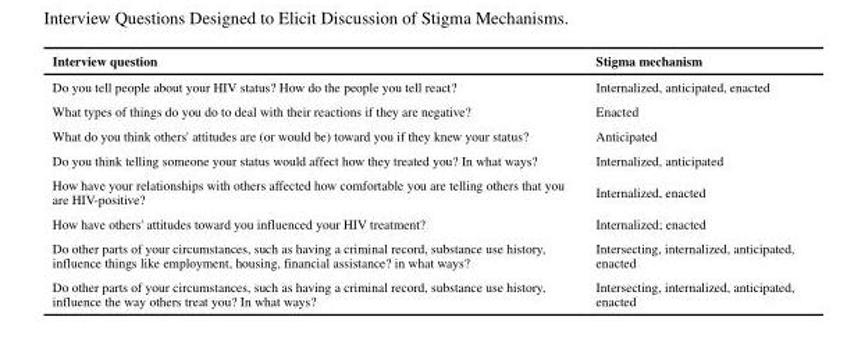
<table><thead><tr><td>Interview question</td><td>Stigma mechanism</td></tr></thead><tbody><tr><td>Do you tell people about your HIV status? How do the people you tell react?</td><td>Internalized, anticipated, enacted</td></tr><tr><td>What types of things do you do to deal with their reactions if they are negative?</td><td>Enacted</td></tr><tr><td>What do you think others&#x27; attitudes are (or would be) toward you if they knew your status?</td><td>Anticipated</td></tr><tr><td>Do you think telling someone your status would affect how they treated you? In what ways?</td><td>Internalized, anticipated</td></tr><tr><td>How have your relationships with others affected how comfortable you are telling others that you are HIV-positive?</td><td>Internalized, enacted</td></tr><tr><td>How have others&#x27; attitudes toward you influenced your HIV treatment?</td><td>Internalized; enacted</td></tr><tr><td>Do other parts of your circumstances, such as having a criminal record, substance use history, influence things like employment, housing, financial assistance? in what ways?</td><td>Intersecting, internalized, anticipated, enacted</td></tr><tr><td>Do other parts of your circumstances, such as having a criminal record, substance use history, influence the way others treat you? In what ways?</td><td>Intersecting, internalized, anticipated, enacted</td></tr></tbody></table>